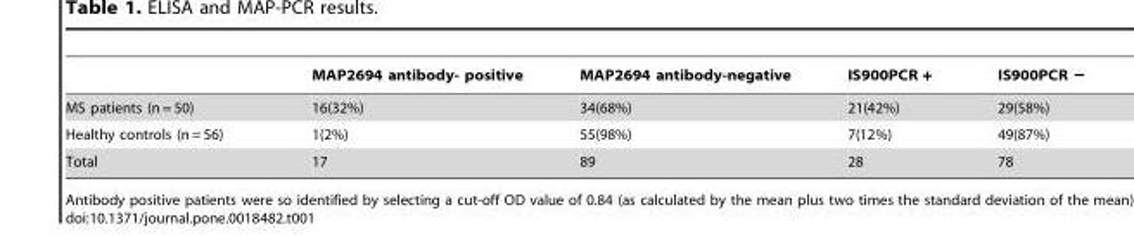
<table><thead><tr><td></td><td>MAP2694 antibody- positive</td><td>MAP2694 antibody-negative</td><td>IS900PCR +</td><td>IS900PCR</td></tr></thead><tbody><tr><td>MS patients (n = 50)</td><td>16(32%)</td><td>34(68%)</td><td>21(42%)</td><td>29(58%)</td></tr><tr><td>Healthy controls (n = 56)</td><td>1(2%)</td><td>55(98%)</td><td>7(12%)</td><td>49(87%)</td></tr><tr><td>Total</td><td>17</td><td>89</td><td>28</td><td>78</td></tr></tbody></table>